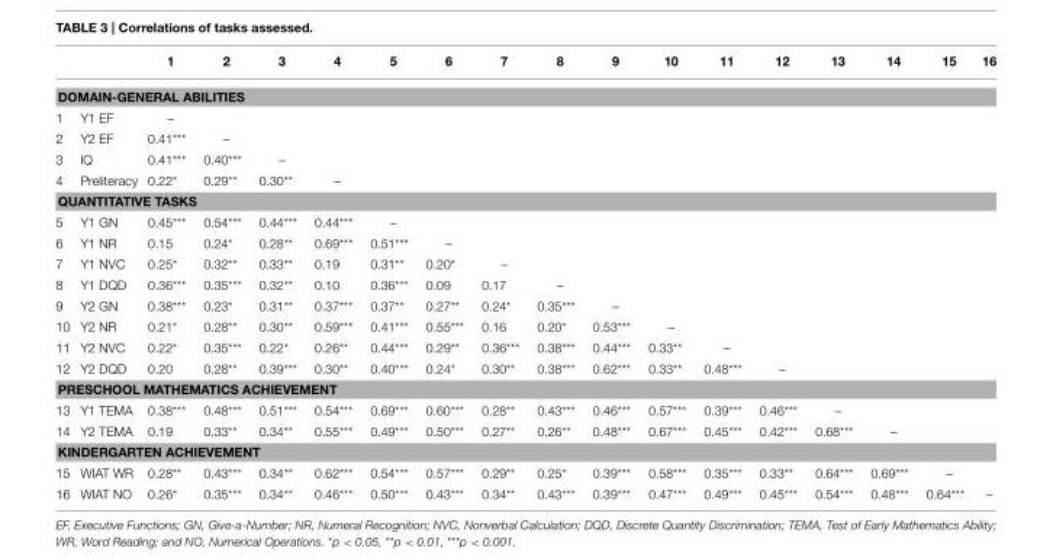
<table><thead><tr><td></td><td></td><td>1</td><td>2</td><td>3</td><td>4</td><td>5</td><td>6</td><td>7</td><td>8</td><td>9</td><td>10</td><td>11</td><td>12</td><td>13</td><td>14</td><td>15</td><td>16</td></tr></thead><tbody><tr><td colspan="18">DOMAIN-GENERAL ABILITIES</td></tr><tr><td>1</td><td>Y1 EF</td><td>–</td><td></td><td></td><td></td><td></td><td></td><td></td><td></td><td></td><td></td><td></td><td></td><td></td><td></td><td></td><td></td></tr><tr><td>2</td><td>Y2 EF</td><td>0.41***</td><td>–</td><td></td><td></td><td></td><td></td><td></td><td></td><td></td><td></td><td></td><td></td><td></td><td></td><td></td><td></td></tr><tr><td>3</td><td>IQ</td><td>0.41***</td><td>0.40***</td><td>–</td><td></td><td></td><td></td><td></td><td></td><td></td><td></td><td></td><td></td><td></td><td></td><td></td><td></td></tr><tr><td>4</td><td>Preliteracy</td><td>0.22*</td><td>0.29**</td><td>0.30**</td><td>–</td><td></td><td></td><td></td><td></td><td></td><td></td><td></td><td></td><td></td><td></td><td></td><td></td></tr><tr><td colspan="18">QUANTITATIVE TASKS</td></tr><tr><td>5</td><td>Y1 GN</td><td>0.45***</td><td>0.54***</td><td>0.44***</td><td>0.44***</td><td>–</td><td></td><td></td><td></td><td></td><td></td><td></td><td></td><td></td><td></td><td></td><td></td></tr><tr><td>6</td><td>Y1 NR</td><td>0.15</td><td>0.24*</td><td>0.28**</td><td>0.69***</td><td>0.51***</td><td>–</td><td></td><td></td><td></td><td></td><td></td><td></td><td></td><td></td><td></td><td></td></tr><tr><td>7</td><td>Y1 NVC</td><td>0.25*</td><td>0.32**</td><td>0.33**</td><td>0.19</td><td>0.31**</td><td>0.20*</td><td>–</td><td></td><td></td><td></td><td></td><td></td><td></td><td></td><td></td><td></td></tr><tr><td>8</td><td>Y1 DQD</td><td>0.36***</td><td>0.35***</td><td>0.32**</td><td>0.10</td><td>0.36***</td><td>0.09</td><td>0.17</td><td>–</td><td></td><td></td><td></td><td></td><td></td><td></td><td></td><td></td></tr><tr><td>9</td><td>Y2 GN</td><td>0.38***</td><td>0.23*</td><td>0.31**</td><td>0.37***</td><td>0.37**</td><td>0.27**</td><td>0.24*</td><td>0.35***</td><td>–</td><td></td><td></td><td></td><td></td><td></td><td></td><td></td></tr><tr><td>10</td><td>Y2 NR</td><td>0.21*</td><td>0.28**</td><td>0.30**</td><td>0.59***</td><td>0.41***</td><td>0.55***</td><td>0.16</td><td>0.20*</td><td>0.53***</td><td>–</td><td></td><td></td><td></td><td></td><td></td><td></td></tr><tr><td>11</td><td>Y2 NVC</td><td>0.22*</td><td>0.35***</td><td>0.22*</td><td>0.26**</td><td>0.44***</td><td>0.29**</td><td>0.36***</td><td>0.38***</td><td>0.44***</td><td>0.33**</td><td>–</td><td></td><td></td><td></td><td></td><td></td></tr><tr><td>12</td><td>Y2 DQD</td><td>0.20</td><td>0.28**</td><td>0.39***</td><td>0.30**</td><td>0.40***</td><td>0.24*</td><td>0.30**</td><td>0.38***</td><td>0.62***</td><td>0.33**</td><td>0.48***</td><td>–</td><td></td><td></td><td></td><td></td></tr><tr><td colspan="18">PRESCHOOL MATHEMATICS ACHIEVEMENT</td></tr><tr><td>13</td><td>Y1 TEMA</td><td>0.38***</td><td>0.48***</td><td>0.51***</td><td>0.54***</td><td>0.69***</td><td>0.60***</td><td>0.28**</td><td>0.43***</td><td>0.46***</td><td>0.57***</td><td>0.39***</td><td>0.46***</td><td>–</td><td></td><td></td><td></td></tr><tr><td>14</td><td>Y2 TEMA</td><td>0.19</td><td>0.33**</td><td>0.34**</td><td>0.55***</td><td>0.49***</td><td>0.50***</td><td>0.27**</td><td>0.26**</td><td>0.48***</td><td>0.67***</td><td>0.45***</td><td>0.42***</td><td>0.68***</td><td>–</td><td></td><td></td></tr><tr><td colspan="18">KINDERGARTEN ACHIEVEMENT</td></tr><tr><td>15</td><td>WIAT WR</td><td>0.28**</td><td>0.43***</td><td>0.34**</td><td>0.62***</td><td>0.54***</td><td>0.57***</td><td>0.29**</td><td>0.25*</td><td>0.39***</td><td>0.58***</td><td>0.35***</td><td>0.33**</td><td>0.64***</td><td>0.69***</td><td>–</td><td></td></tr><tr><td>16</td><td>WIAT NO</td><td>0.26*</td><td>0.35***</td><td>0.34**</td><td>0.46***</td><td>0.50***</td><td>0.43***</td><td>0.34**</td><td>0.43***</td><td>0.39***</td><td>0.47***</td><td>0.49***</td><td>0.45***</td><td>0.54***</td><td>0.48***</td><td>0.64***</td><td>–</td></tr></tbody></table>